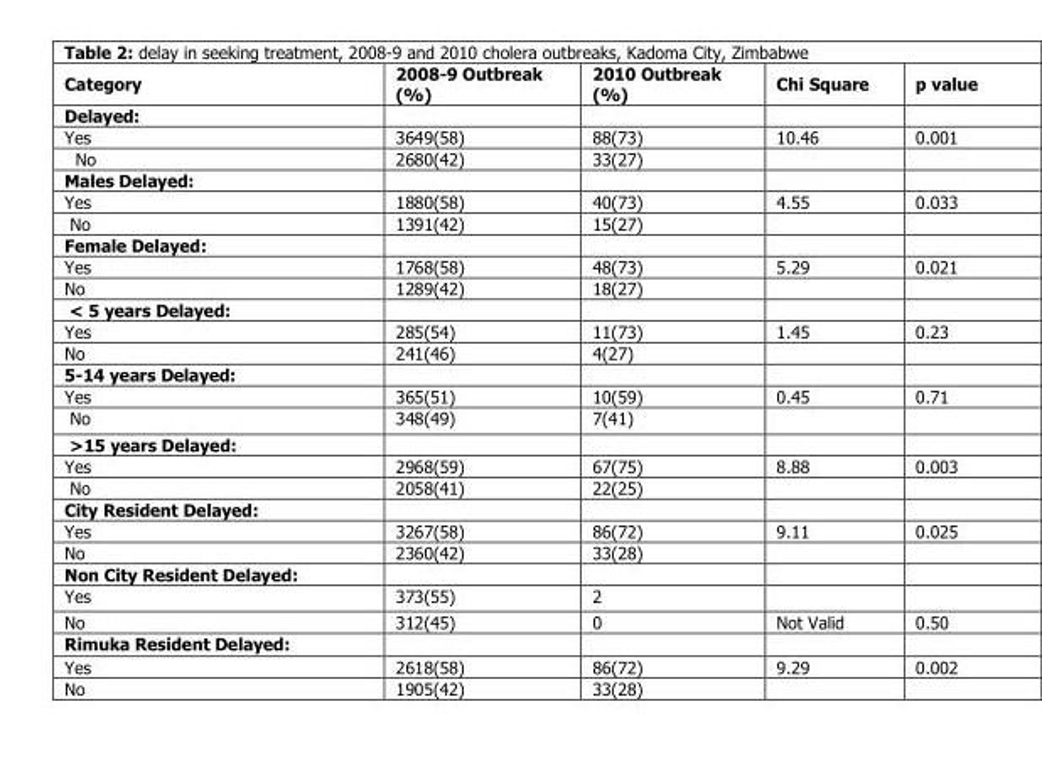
<table><thead><tr><td>Category</td><td>2008-9 Outbreak (%)</td><td>2010 Outbreak (%)</td><td>Chi Square</td><td>p value</td></tr></thead><tbody><tr><td colspan="5">Delayed:</td></tr><tr><td>Yes</td><td>3649(58)</td><td>88(73)</td><td>10.46</td><td>0.001</td></tr><tr><td>No</td><td>2680(42)</td><td>33(27)</td><td></td><td></td></tr><tr><td colspan="5">Males Delayed:</td></tr><tr><td>Yes</td><td>1880(58)</td><td>40(73)</td><td>4.55</td><td>0.033</td></tr><tr><td>No</td><td>1391(42)</td><td>15(27)</td><td></td><td></td></tr><tr><td colspan="5">Female Delayed:</td></tr><tr><td>Yes</td><td>1768(58)</td><td>48(73)</td><td>5.29</td><td>0.021</td></tr><tr><td>No</td><td>1289(42)</td><td>18(27)</td><td></td><td></td></tr><tr><td colspan="5">&lt; 5 years Delayed:</td></tr><tr><td>Yes</td><td>285(54)</td><td>11(73)</td><td>1.45</td><td>0.23</td></tr><tr><td>No</td><td>241(46)</td><td>4(27)</td><td></td><td></td></tr><tr><td colspan="5">5-14 years Delayed:</td></tr><tr><td>Yes</td><td>365(51)</td><td>10(59)</td><td>0.45</td><td>0.71</td></tr><tr><td>No</td><td>348(49)</td><td>7(41)</td><td></td><td></td></tr><tr><td colspan="5">&gt;15 years Delayed:</td></tr><tr><td>Yes</td><td>2968(59)</td><td>67(75)</td><td>8.88</td><td>0.003</td></tr><tr><td>No</td><td>2058(41)</td><td>22(25)</td><td></td><td></td></tr><tr><td colspan="5">City Resident Delayed:</td></tr><tr><td>Yes</td><td>3267(58)</td><td>86(72)</td><td>9.11</td><td>0.025</td></tr><tr><td>No</td><td>2360(42)</td><td>33(28)</td><td></td><td></td></tr><tr><td colspan="5">Non City Resident Delayed:</td></tr><tr><td>Yes</td><td>373(55)</td><td>2</td><td></td><td></td></tr><tr><td>No</td><td>312(45)</td><td>0</td><td>Not Valid</td><td>0.50</td></tr><tr><td colspan="5">Rimuka Resident Delayed:</td></tr><tr><td>Yes</td><td>2618(58)</td><td>86(72)</td><td>9.29</td><td>0.002</td></tr><tr><td>No</td><td>1905(42)</td><td>33(28)</td><td></td><td></td></tr></tbody></table>